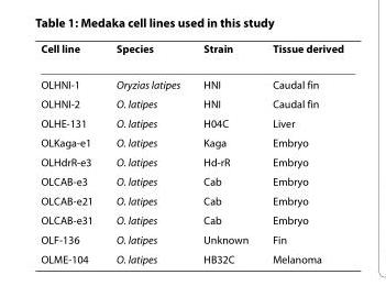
<table><thead><tr><td>Cell line</td><td>Species</td><td>Strain</td><td>Tissue derived</td></tr></thead><tbody><tr><td>OLHNI-1</td><td>Oryzias latipes</td><td>HNI</td><td>Caudal fin</td></tr><tr><td>OLHNI-2</td><td>O. latipes</td><td>HNI</td><td>Caudal fin</td></tr><tr><td>OLHE-131</td><td>O. latipes</td><td>H04C</td><td>Liver</td></tr><tr><td>OLKaga-e1</td><td>O. latipes</td><td>Kaga</td><td>Embryo</td></tr><tr><td>OLHdrR-e3</td><td>O. latipes</td><td>Hd-rR</td><td>Embryo</td></tr><tr><td>OLCAB-e3</td><td>O. latipes</td><td>Cab</td><td>Embryo</td></tr><tr><td>OLCAB-e21</td><td>O. latipes</td><td>Cab</td><td>Embryo</td></tr><tr><td>OLCAB-e31</td><td>O. latipes</td><td>Cab</td><td>Embryo</td></tr><tr><td>OLF-136</td><td>O. latipes</td><td>Unknown</td><td>Fin</td></tr><tr><td>OLME-104</td><td>O. latipes</td><td>HB32C</td><td>Melanoma</td></tr></tbody></table>